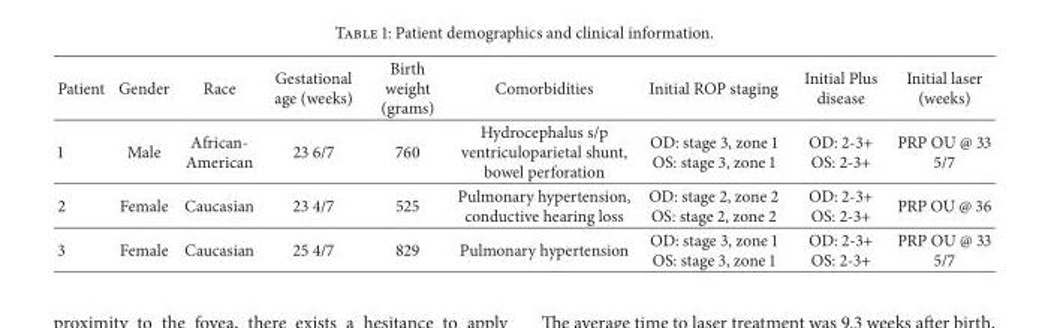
<table><thead><tr><td>Patient</td><td>Gender</td><td>Race</td><td>Gestational age (weeks)</td><td>Birth weight (grams)</td><td>Comorbidities</td><td>Initial ROP staging</td><td>Initial Plus disease</td><td>Initial laser (weeks)</td></tr></thead><tbody><tr><td>1</td><td>Male</td><td>African- American</td><td>23 6/7</td><td>760</td><td>Hydrocephalus s/p ventriculoparietal shunt, bowel perforation</td><td>OD: stage 3, zone 1 OS: stage 3, zone 1</td><td>OD: 2-3+ OS: 2-3+</td><td>PRP OU @ 33 5/7</td></tr><tr><td>2</td><td>Female</td><td>Caucasian</td><td>23 4/7</td><td>525</td><td>Pulmonary hypertension, conductive hearing loss</td><td>OD: stage 2, zone 2 OS: stage 2, zone 2</td><td>OD: 2-3+ OS: 2-3+</td><td>PRP OU @ 36</td></tr><tr><td>3</td><td>Female</td><td>Caucasian</td><td>25 4/7</td><td>829</td><td>Pulmonary hypertension</td><td>OD: stage 3, zone 1 OS: stage 3, zone 1</td><td>OD: 2-3+ OS: 2-3+</td><td>PRP OU @ 33 5/7</td></tr></tbody></table>